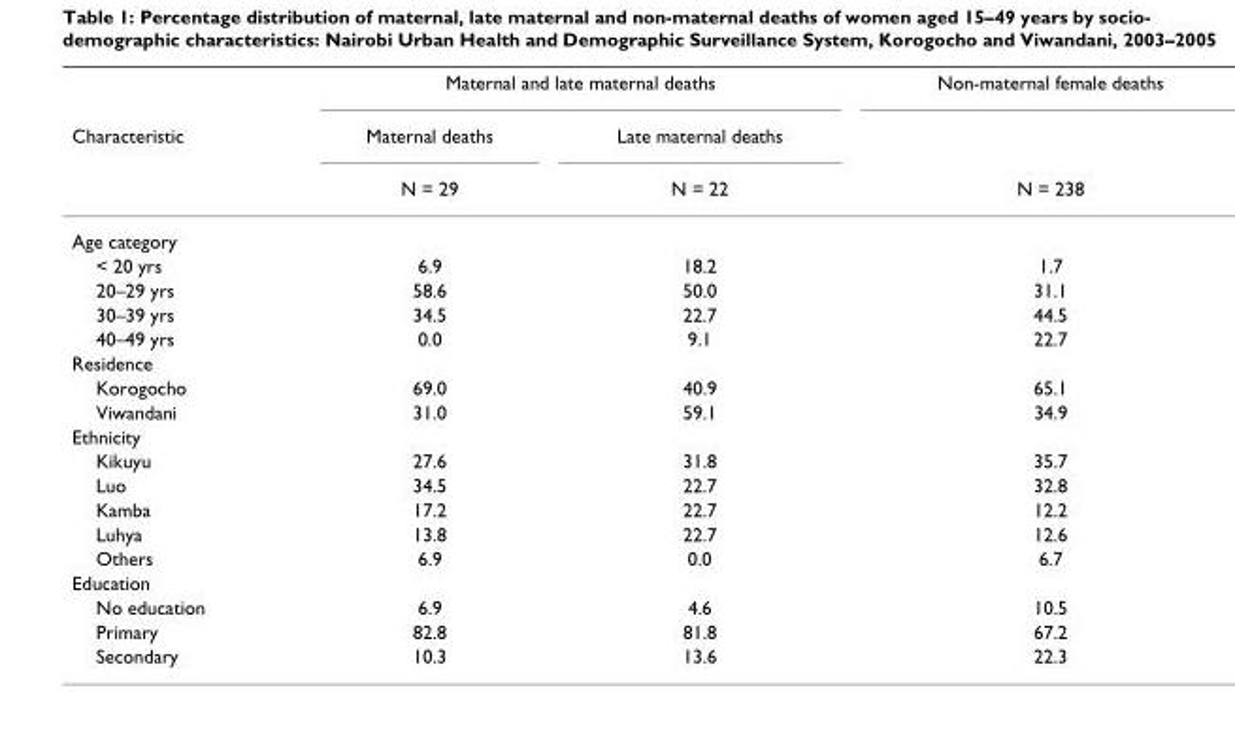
<table><thead><tr><td rowspan="3">Characteristic</td><td colspan="2">Maternal and late maternal deaths</td><td rowspan="3">Non-maternal female deaths N = 238</td></tr><tr><td rowspan="2">Maternal deaths N = 29</td><td rowspan="2">Late maternal deaths N = 22</td></tr><tr></tr></thead><tbody><tr><td colspan="4">Age category</td></tr><tr><td>&lt; 20 yrs</td><td>6.9</td><td>18.2</td><td>1.7</td></tr><tr><td>20–29 yrs</td><td>58.6</td><td>50.0</td><td>31.1</td></tr><tr><td>30–39 yrs</td><td>34.5</td><td>22.7</td><td>44.5</td></tr><tr><td>40–49 yrs</td><td>0.0</td><td>9.1</td><td>22.7</td></tr><tr><td colspan="4">Residence</td></tr><tr><td>Korogocho</td><td>69.0</td><td>40.9</td><td>65.1</td></tr><tr><td>Viwandani</td><td>31.0</td><td>59.1</td><td>34.9</td></tr><tr><td colspan="4">Ethnicity</td></tr><tr><td>Kikuyu</td><td>27.6</td><td>31.8</td><td>35.7</td></tr><tr><td>Luo</td><td>34.5</td><td>22.7</td><td>32.8</td></tr><tr><td>Kamba</td><td>17.2</td><td>22.7</td><td>12.2</td></tr><tr><td>Luhya</td><td>13.8</td><td>22.7</td><td>12.6</td></tr><tr><td>Others</td><td>6.9</td><td>0.0</td><td>6.7</td></tr><tr><td colspan="4">Education</td></tr><tr><td>No education</td><td>6.9</td><td>4.6</td><td>10.5</td></tr><tr><td>Primary</td><td>82.8</td><td>81.8</td><td>67.2</td></tr><tr><td>Secondary</td><td>10.3</td><td>13.6</td><td>22.3</td></tr></tbody></table>